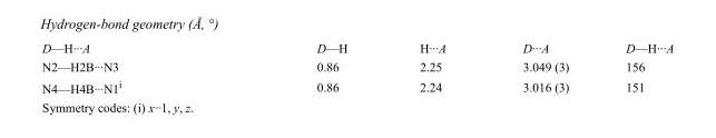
<table><tbody><tr><td>D—H···A</td><td>D—H</td><td>H···A</td><td>D···A</td><td>D—H···A</td></tr><tr><td>N2—H2B···N3</td><td>0.86</td><td>2.25</td><td>3.049 (3)</td><td>156</td></tr><tr><td>N4—H4B···N1<sup>i</sup></td><td>0.86</td><td>2.24</td><td>3.016 (3)</td><td>151</td></tr></tbody></table>